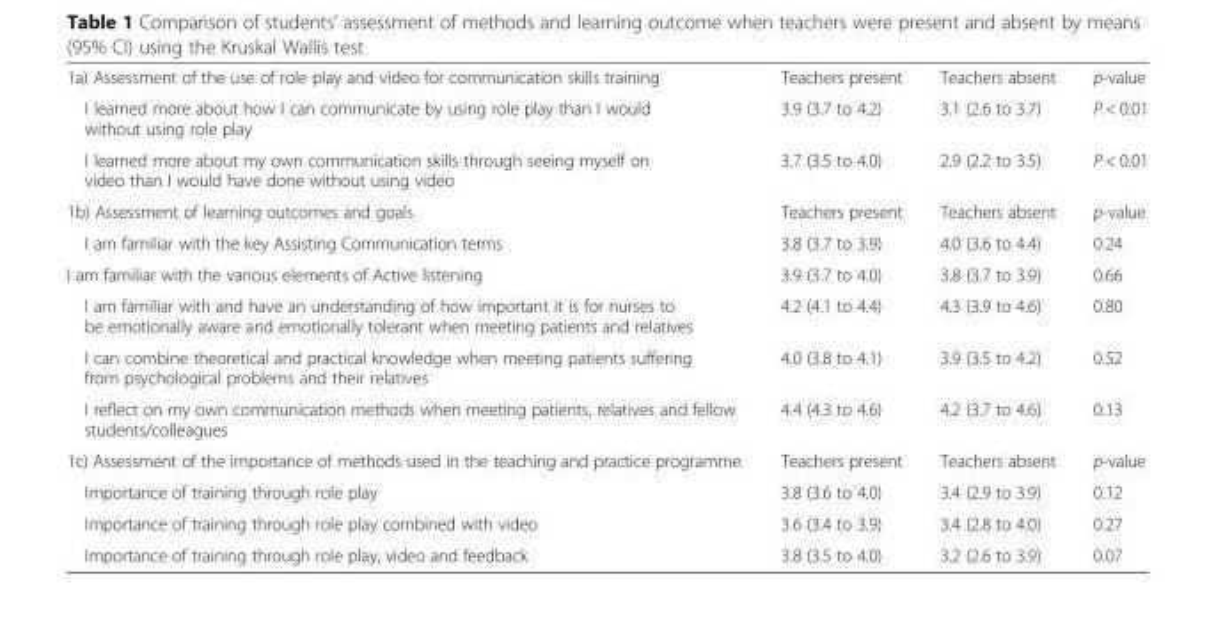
<table><tbody><tr><td>1a) Assessment of the use of role play and video for communication skills training</td><td>Teachers present</td><td>Teachers absent</td><td>p-value</td></tr><tr><td>I learned more about how I can communicate by using role play than I would without using role play</td><td>3.9 (3.7 to 4.2)</td><td>3.1 (2.6 to 3.7)</td><td>P &lt; 0.01</td></tr><tr><td>I learned more about my own communication skills through seeing myself on video than I would have done without using video</td><td>3.7 (3.5 to 4.0)</td><td>2.9 (2.2 to 3.5)</td><td>P &lt; 0.01</td></tr><tr><td>1b) Assessment of learning outcomes and goals</td><td>Teachers present</td><td>Teachers absent</td><td>p-value</td></tr><tr><td>I am familiar with the key Assisting Communication terms</td><td>3.8 (3.7 to 3.9)</td><td>4.0 (3.6 to 4.4)</td><td>0.24</td></tr><tr><td>I am familiar with the various elements of Active listening</td><td>3.9 (3.7 to 4.0)</td><td>3.8 (3.7 to 3.9)</td><td>0.66</td></tr><tr><td>I am familiar with and have an understanding of how important it is for nurses to be emotionally aware and emotionally tolerant when meeting patients and relatives</td><td>4.2 (4.1 to 4.4)</td><td>4.3 (3.9 to 4.6)</td><td>0.80</td></tr><tr><td>I can combine theoretical and practical knowledge when meeting patients suffering from psychological problems and their relatives</td><td>4.0 (3.8 to 4.1)</td><td>3.9 (3.5 to 4.2)</td><td>0.52</td></tr><tr><td>I reflect on my own communication methods when meeting patients, relatives and fellow students/colleagues</td><td>4.4 (4.3 to 4.6)</td><td>4.2 (3.7 to 4.6)</td><td>0.13</td></tr><tr><td>1c) Assessment of the importance of methods used in the teaching and practice programme.</td><td>Teachers present</td><td>Teachers absent</td><td>p-value</td></tr><tr><td>Importance of training through role play</td><td>3.8 (3.6 to 4.0)</td><td>3.4 (2.9 to 3.9)</td><td>0.12</td></tr><tr><td>Importance of training through role play combined with video</td><td>3.6 (3.4 to 3.9)</td><td>3.4 (2.8 to 4.0)</td><td>0.27</td></tr><tr><td>Importance of training through role play, video and feedback</td><td>3.8 (3.5 to 4.0)</td><td>3.2 (2.6 to 3.9)</td><td>0.07</td></tr></tbody></table>